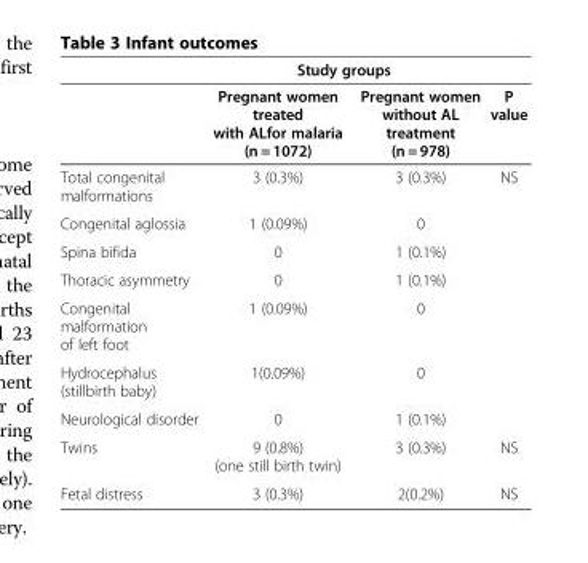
<table><thead><tr><td rowspan="2"></td><td colspan="2">Study groups</td><td rowspan="2">P value</td></tr><tr><td>Pregnant women treated with ALfor malaria (n = 1072)</td><td>Pregnant women without AL treatment (n = 978)</td></tr></thead><tbody><tr><td>Total congenital malformations</td><td>3 (0.3%)</td><td>3 (0.3%)</td><td>NS</td></tr><tr><td>Congenital aglossia</td><td>1 (0.09%)</td><td>0</td><td rowspan="6"></td></tr><tr><td>Spina bifida</td><td>0</td><td>1 (0.1%)</td></tr><tr><td>Thoracic asymmetry</td><td>0</td><td>1 (0.1%)</td></tr><tr><td>Congenital malformation of left foot</td><td>1 (0.09%)</td><td>0</td></tr><tr><td>Hydrocephalus (stillbirth baby)</td><td>1(0.09%)</td><td>0</td></tr><tr><td>Neurological disorder</td><td>0</td><td>1 (0.1%)</td></tr><tr><td>Twins</td><td>9 (0.8%) (one still birth twin)</td><td>3 (0.3%)</td><td>NS</td></tr><tr><td>Fetal distress</td><td>3 (0.3%)</td><td>2(0.2%)</td><td>NS</td></tr></tbody></table>